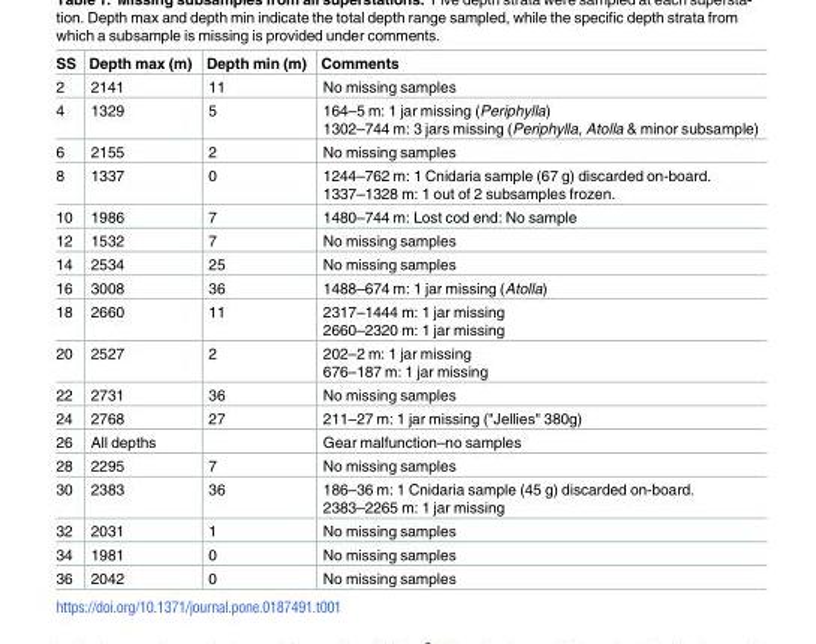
<table><thead><tr><td>SS</td><td>Depth max (m)</td><td>Depth min (m)</td><td>Comments</td></tr></thead><tbody><tr><td>2</td><td>2141</td><td>11</td><td>No missing samples</td></tr><tr><td>4</td><td>1329</td><td>5</td><td>164–5 m: 1 jar missing (Periphylla) 1302–744 m: 3 jars missing (Periphylla, Atolla &amp; minor subsample)</td></tr><tr><td>6</td><td>2155</td><td>2</td><td>No missing samples</td></tr><tr><td>8</td><td>1337</td><td>0</td><td>1244–762 m: 1 Cnidaria sample (67 g) discarded on-board. 1337–1328 m: 1 out of 2 subsamples frozen.</td></tr><tr><td>10</td><td>1986</td><td>7</td><td>1480–744 m: Lost cod end: No sample</td></tr><tr><td>12</td><td>1532</td><td>7</td><td>No missing samples</td></tr><tr><td>14</td><td>2534</td><td>25</td><td>No missing samples</td></tr><tr><td>16</td><td>3008</td><td>36</td><td>1488–674 m: 1 jar missing (Atolla)</td></tr><tr><td>18</td><td>2660</td><td>11</td><td>2317–1444 m: 1 jar missing 2660–2320 m: 1 jar missing</td></tr><tr><td>20</td><td>2527</td><td>2</td><td>202–2 m: 1 jar missing 676–187 m: 1 jar missing</td></tr><tr><td>22</td><td>2731</td><td>36</td><td>No missing samples</td></tr><tr><td>24</td><td>2768</td><td>27</td><td>211–27 m: 1 jar missing (&quot;Jellies&quot; 380g)</td></tr><tr><td>26</td><td>All depths</td><td></td><td>Gear malfunction–no samples</td></tr><tr><td>28</td><td>2295</td><td>7</td><td>No missing samples</td></tr><tr><td>30</td><td>2383</td><td>36</td><td>186–36 m: 1 Cnidaria sample (45 g) discarded on-board. 2383–2265 m: 1 jar missing</td></tr><tr><td>32</td><td>2031</td><td>1</td><td>No missing samples</td></tr><tr><td>34</td><td>1981</td><td>0</td><td>No missing samples</td></tr><tr><td>36</td><td>2042</td><td>0</td><td>No missing samples</td></tr></tbody></table>